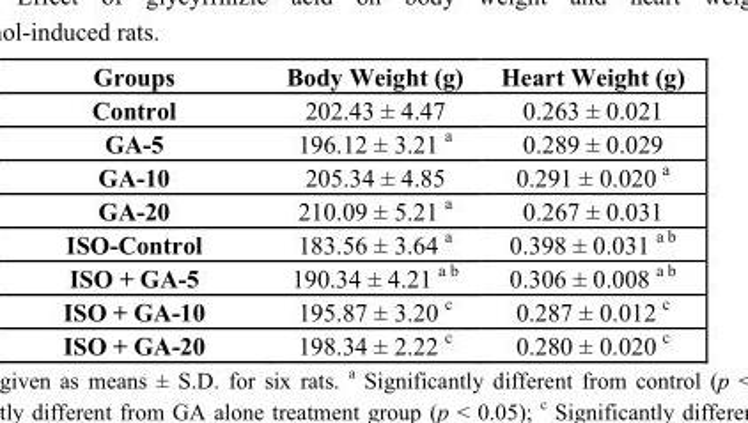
<table><thead><tr><td>Groups</td><td>Body Weight (g)</td><td>Heart Weight (g)</td></tr></thead><tbody><tr><td>Control</td><td>202.43 ± 4.47</td><td>0.263 ± 0.021</td></tr><tr><td>GA-5</td><td>196.12 ± 3.21 a</td><td>0.289 ± 0.029</td></tr><tr><td>GA-10</td><td>205.34 ± 4.85</td><td>0.291 ± 0.020 a</td></tr><tr><td>GA-20</td><td>210.09 ± 5.21 a</td><td>0.267 ± 0.031</td></tr><tr><td>ISO-Control</td><td>183.56 ± 3.64 a</td><td>0.398 ± 0.031 a b</td></tr><tr><td>ISO + GA-5</td><td>190.34 ± 4.21 a b</td><td>0.306 ± 0.008 a b</td></tr><tr><td>ISO + GA-10</td><td>195.87 ± 3.20 c</td><td>0.287 ± 0.012 c</td></tr><tr><td>ISO + GA-20</td><td>198.34 ± 2.22 c</td><td>0.280 ± 0.020 c</td></tr></tbody></table>